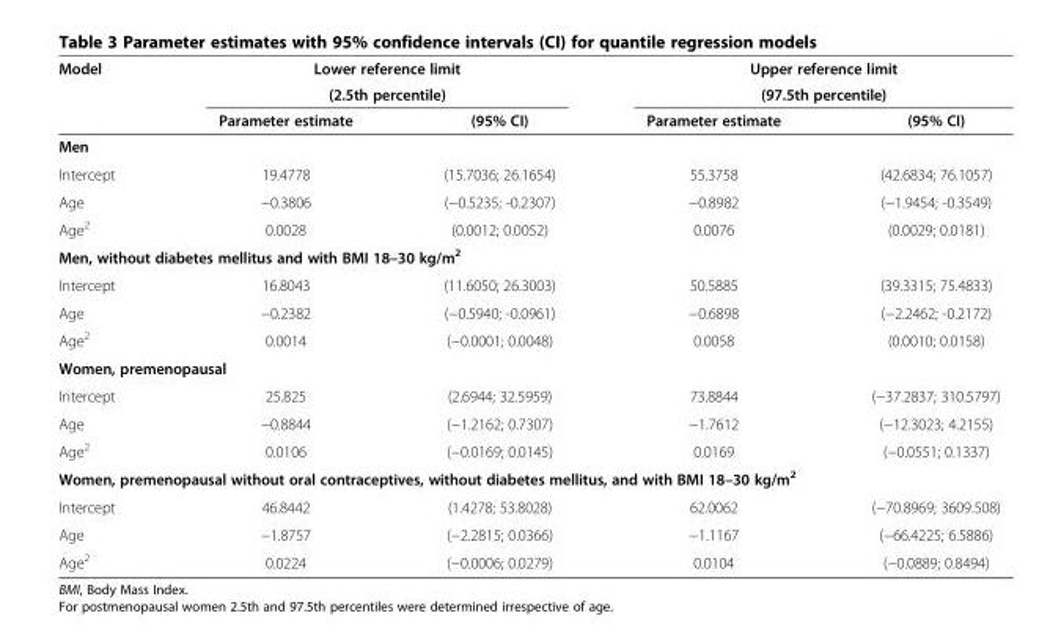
<table><thead><tr><td rowspan="3">Model</td><td rowspan="2" colspan="2">Lower reference limit (2.5th percentile)</td><td rowspan="2" colspan="2">Upper reference limit (97.5th percentile)</td></tr><tr></tr><tr><td>Parameter estimate</td><td>(95% CI)</td><td>Parameter estimate</td><td>(95% CI)</td></tr></thead><tbody><tr><td colspan="5">Men</td></tr><tr><td>Intercept</td><td>19.4778</td><td>(15.7036; 26.1654)</td><td>55.3758</td><td>(42.6834; 76.1057)</td></tr><tr><td>Age</td><td>−0.3806</td><td>(−0.5235; -0.2307)</td><td>−0.8982</td><td>(−1.9454; -0.3549)</td></tr><tr><td>Age<sup>2</sup></td><td>0.0028</td><td>(0.0012; 0.0052)</td><td>0.0076</td><td>(0.0029; 0.0181)</td></tr><tr><td colspan="5">Men, without diabetes mellitus and with BMI 18–30 kg/m<sup>2</sup></td></tr><tr><td>Intercept</td><td>16.8043</td><td>(11.6050; 26.3003)</td><td>50.5885</td><td>(39.3315; 75.4833)</td></tr><tr><td>Age</td><td>−0.2382</td><td>(−0.5940; -0.0961)</td><td>−0.6898</td><td>(−2.2462; -0.2172)</td></tr><tr><td>Age<sup>2</sup></td><td>0.0014</td><td>(−0.0001; 0.0048)</td><td>0.0058</td><td>(0.0010; 0.0158)</td></tr><tr><td colspan="5">Women, premenopausal</td></tr><tr><td>Intercept</td><td>25.825</td><td>(2.6944; 32.5959)</td><td>73.8844</td><td>(−37.2837; 310.5797)</td></tr><tr><td>Age</td><td>−0.8844</td><td>(−1.2162; 0.7307)</td><td>−1.7612</td><td>(−12.3023; 4.2155)</td></tr><tr><td>Age<sup>2</sup></td><td>0.0106</td><td>(−0.0169; 0.0145)</td><td>0.0169</td><td>(−0.0551; 0.1337)</td></tr><tr><td colspan="5">Women, premenopausal without oral contraceptives, without diabetes mellitus, and with BMI 18–30 kg/m<sup>2</sup></td></tr><tr><td>Intercept</td><td>46.8442</td><td>(1.4278; 53.8028)</td><td>62.0062</td><td>(−70.8969; 3609.508)</td></tr><tr><td>Age</td><td>−1.8757</td><td>(−2.2815; 0.0366)</td><td>−1.1167</td><td>(−66.4225; 6.5886)</td></tr><tr><td>Age<sup>2</sup></td><td>0.0224</td><td>(−0.0006; 0.0279)</td><td>0.0104</td><td>(−0.0889; 0.8494)</td></tr></tbody></table>